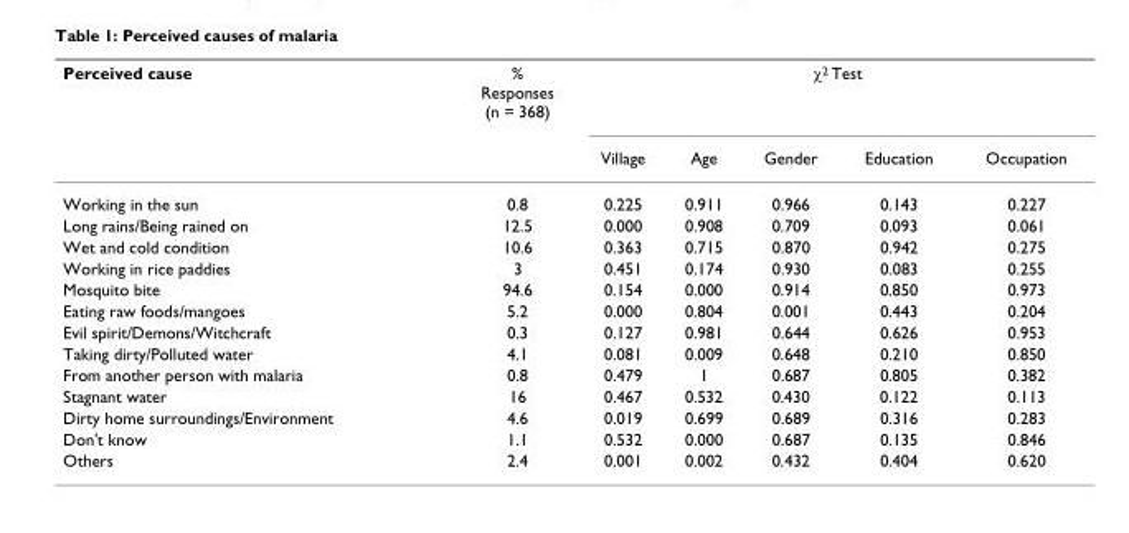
<table><thead><tr><td rowspan="2">Perceived cause</td><td rowspan="2">% Responses (n = 368)</td><td colspan="5">χ<sup>2</sup> Test</td></tr><tr><td>Village</td><td>Age</td><td>Gender</td><td>Education</td><td>Occupation</td></tr></thead><tbody><tr><td>Working in the sun</td><td>0.8</td><td>0.225</td><td>0.911</td><td>0.966</td><td>0.143</td><td>0.227</td></tr><tr><td>Long rains/Being rained on</td><td>12.5</td><td>0.000</td><td>0.908</td><td>0.709</td><td>0.093</td><td>0.061</td></tr><tr><td>Wet and cold condition</td><td>10.6</td><td>0.363</td><td>0.715</td><td>0.870</td><td>0.942</td><td>0.275</td></tr><tr><td>Working in rice paddies</td><td>3</td><td>0.451</td><td>0.174</td><td>0.930</td><td>0.083</td><td>0.255</td></tr><tr><td>Mosquito bite</td><td>94.6</td><td>0.154</td><td>0.000</td><td>0.914</td><td>0.850</td><td>0.973</td></tr><tr><td>Eating raw foods/mangoes</td><td>5.2</td><td>0.000</td><td>0.804</td><td>0.001</td><td>0.443</td><td>0.204</td></tr><tr><td>Evil spirit/Demons/Witchcraft</td><td>0.3</td><td>0.127</td><td>0.981</td><td>0.644</td><td>0.626</td><td>0.953</td></tr><tr><td>Taking dirty/Polluted water</td><td>4.1</td><td>0.081</td><td>0.009</td><td>0.648</td><td>0.210</td><td>0.850</td></tr><tr><td>From another person with malaria</td><td>0.8</td><td>0.479</td><td>1</td><td>0.687</td><td>0.805</td><td>0.382</td></tr><tr><td>Stagnant water</td><td>16</td><td>0.467</td><td>0.532</td><td>0.430</td><td>0.122</td><td>0.113</td></tr><tr><td>Dirty home surroundings/Environment</td><td>4.6</td><td>0.019</td><td>0.699</td><td>0.689</td><td>0.316</td><td>0.283</td></tr><tr><td>Don&#x27;t know</td><td>1.1</td><td>0.532</td><td>0.000</td><td>0.687</td><td>0.135</td><td>0.846</td></tr><tr><td>Others</td><td>2.4</td><td>0.001</td><td>0.002</td><td>0.432</td><td>0.404</td><td>0.620</td></tr></tbody></table>